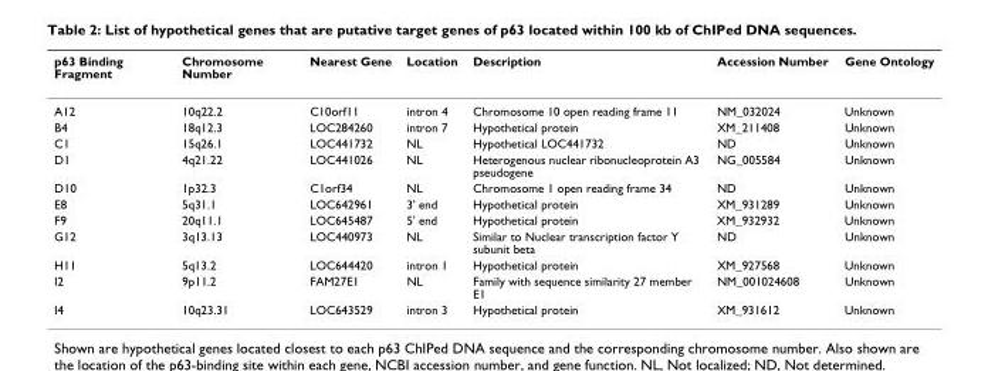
<table><thead><tr><td>p63 Binding Fragment</td><td>Chromosome Number</td><td>Nearest Gene</td><td>Location</td><td>Description</td><td>Accession Number</td><td>Gene Ontology</td></tr></thead><tbody><tr><td>A12</td><td>10q22.2</td><td>C10orf11</td><td>intron 4</td><td>Chromosome 10 open reading frame 11</td><td>NM_032024</td><td>Unknown</td></tr><tr><td>B4</td><td>18q12.3</td><td>LOC284260</td><td>intron 7</td><td>Hypothetical protein</td><td>XM_211408</td><td>Unknown</td></tr><tr><td>C1</td><td>15q26.1</td><td>LOC441732</td><td>NL</td><td>Hypothetical LOC441732</td><td>ND</td><td>Unknown</td></tr><tr><td>D1</td><td>4q21.22</td><td>LOC441026</td><td>NL</td><td>Heterogenous nuclear ribonucleoprotein A3 pseudogene</td><td>NG_005584</td><td>Unknown</td></tr><tr><td>D10</td><td>1p32.3</td><td>C1orf34</td><td>NL</td><td>Chromosome 1 open reading frame 34</td><td>ND</td><td>Unknown</td></tr><tr><td>E8</td><td>5q31.1</td><td>LOC642961</td><td>3&#x27; end</td><td>Hypothetical protein</td><td>XM_931289</td><td>Unknown</td></tr><tr><td>F9</td><td>20q11.1</td><td>LOC645487</td><td>5&#x27; end</td><td>Hypothetical protein</td><td>XM_932932</td><td>Unknown</td></tr><tr><td>G12</td><td>3q13.13</td><td>LOC440973</td><td>NL</td><td>Similar to Nuclear transcription factor Y subunit beta</td><td>ND</td><td>Unknown</td></tr><tr><td>H11</td><td>5q13.2</td><td>LOC644420</td><td>intron 1</td><td>Hypothetical protein</td><td>XM_927568</td><td>Unknown</td></tr><tr><td>I2</td><td>9p11.2</td><td>FAM27E1</td><td>NL</td><td>Family with sequence similarity 27 member E1</td><td>NM_001024608</td><td>Unknown</td></tr><tr><td>I4</td><td>10q23.31</td><td>LOC643529</td><td>intron 3</td><td>Hypothetical protein</td><td>XM_931612</td><td>Unknown</td></tr></tbody></table>